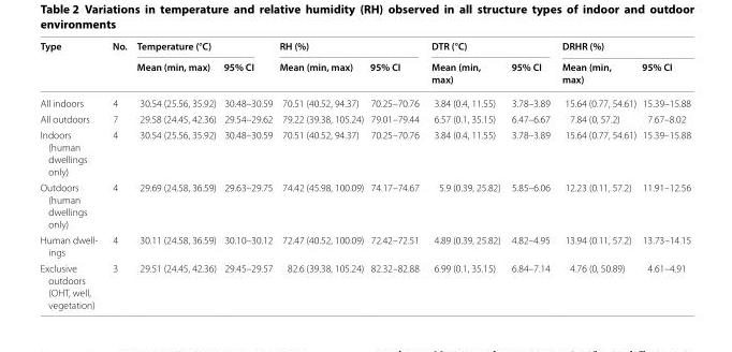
<table><thead><tr><td rowspan="2">Type</td><td rowspan="2">No.</td><td colspan="2">Temperature (°C)</td><td colspan="2">RH (%)</td><td colspan="2">DTR (°C)</td><td colspan="2">DRHR (%)</td></tr><tr><td>Mean (min, max)</td><td>95% CI</td><td>Mean (min, max)</td><td>95% CI</td><td>Mean (min, max)</td><td>95% CI</td><td>Mean (min, max)</td><td>95% CI</td></tr></thead><tbody><tr><td>All indoors</td><td>4</td><td>30.54 (25.56, 35.92)</td><td>30.48–30.59</td><td>70.51 (40.52, 94.37)</td><td>70.25–70.76</td><td>3.84 (0.4, 11.55)</td><td>3.78–3.89</td><td>15.64 (0.77, 54.61)</td><td>15.39–15.88</td></tr><tr><td>All outdoors</td><td>7</td><td>29.58 (24.45, 42.36)</td><td>29.54–29.62</td><td>79.22 (39.38, 105.24)</td><td>79.01–79.44</td><td>6.57 (0.1, 35.15)</td><td>6.47–6.67</td><td>7.84 (0, 57.2)</td><td>7.67–8.02</td></tr><tr><td>Indoors (human dwellings only)</td><td>4</td><td>30.54 (25.56, 35.92)</td><td>30.48–30.59</td><td>70.51 (40.52, 94.37)</td><td>70.25–70.76</td><td>3.84 (0.4, 11.55)</td><td>3.78–3.89</td><td>15.64 (0.77, 54.61)</td><td>15.39–15.88</td></tr><tr><td>Outdoors (human dwellings only)</td><td>4</td><td>29.69 (24.58, 36.59)</td><td>29.63–29.75</td><td>74.42 (45.98, 100.09)</td><td>74.17–74.67</td><td>5.9 (0.39, 25.82)</td><td>5.85–6.06</td><td>12.23 (0.11, 57.2)</td><td>11.91–12.56</td></tr><tr><td>Human dwell- ings</td><td>4</td><td>30.11 (24.58, 36.59)</td><td>30.10–30.12</td><td>72.47 (40.52, 100.09)</td><td>72.42–72.51</td><td>4.89 (0.39, 25.82)</td><td>4.82–4.95</td><td>13.94 (0.11, 57.2)</td><td>13.73–14.15</td></tr><tr><td>Exclusive outdoors (OHT, well, vegetation)</td><td>3</td><td>29.51 (24.45, 42.36)</td><td>29.45–29.57</td><td>82.6 (39.38, 105.24)</td><td>82.32–82.88</td><td>6.99 (0.1, 35.15)</td><td>6.84–7.14</td><td>4.76 (0, 50.89)</td><td>4.61–4.91</td></tr></tbody></table>